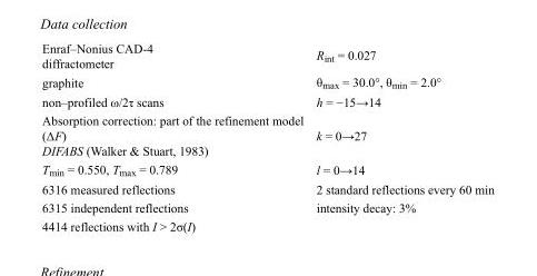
<table><tbody><tr><td>Enraf–Nonius CAD-4 diffractometer</td><td>R<sub>int</sub> = 0.027</td></tr><tr><td>graphite</td><td>θ<sub>max</sub> = 30.0°, θ<sub>min</sub> = 2.0°</td></tr><tr><td>non–profiled ω/2τ scans</td><td>h = −15→14</td></tr><tr><td>Absorption correction: part of the refinement model (ΔF) DIFABS (Walker &amp; Stuart, 1983)</td><td>k = 0→27</td></tr><tr><td>T<sub>min</sub> = 0.550, T<sub>max</sub> = 0.789</td><td>l = 0→14</td></tr><tr><td>6316 measured reflections</td><td>2 standard reflections every 60 min</td></tr><tr><td>6315 independent reflections</td><td>intensity decay: 3%</td></tr><tr><td>4414 reflections with I &gt; 2σ(I)</td><td></td></tr></tbody></table>